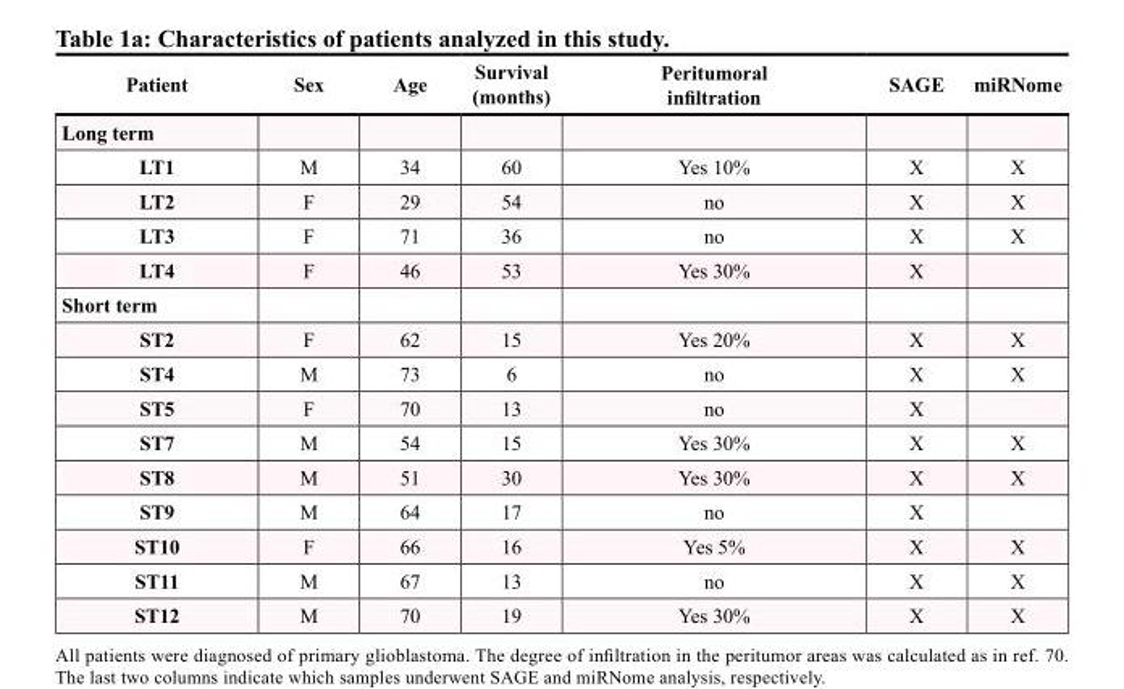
<table><thead><tr><td>Patient</td><td>Sex</td><td>Age</td><td>Survival (months)</td><td>Peritumoral infiltration</td><td>SAGE</td><td>miRNome</td></tr></thead><tbody><tr><td colspan="7">Long term</td></tr><tr><td>LT1</td><td>M</td><td>34</td><td>60</td><td>Yes 10%</td><td>X</td><td>X</td></tr><tr><td>LT2</td><td>F</td><td>29</td><td>54</td><td>no</td><td>X</td><td>X</td></tr><tr><td>LT3</td><td>F</td><td>71</td><td>36</td><td>no</td><td>X</td><td>X</td></tr><tr><td>LT4</td><td>F</td><td>46</td><td>53</td><td>Yes 30%</td><td>X</td><td></td></tr><tr><td colspan="7">Short term</td></tr><tr><td>ST2</td><td>F</td><td>62</td><td>15</td><td>Yes 20%</td><td>X</td><td>X</td></tr><tr><td>ST4</td><td>M</td><td>73</td><td>6</td><td>no</td><td>X</td><td>X</td></tr><tr><td>ST5</td><td>F</td><td>70</td><td>13</td><td>no</td><td>X</td><td></td></tr><tr><td>ST7</td><td>M</td><td>54</td><td>15</td><td>Yes 30%</td><td>X</td><td>X</td></tr><tr><td>ST8</td><td>M</td><td>51</td><td>30</td><td>Yes 30%</td><td>X</td><td>X</td></tr><tr><td>ST9</td><td>M</td><td>64</td><td>17</td><td>no</td><td>X</td><td></td></tr><tr><td>ST10</td><td>F</td><td>66</td><td>16</td><td>Yes 5%</td><td>X</td><td>X</td></tr><tr><td>ST11</td><td>M</td><td>67</td><td>13</td><td>no</td><td>X</td><td>X</td></tr><tr><td>ST12</td><td>M</td><td>70</td><td>19</td><td>Yes 30%</td><td>X</td><td>X</td></tr></tbody></table>